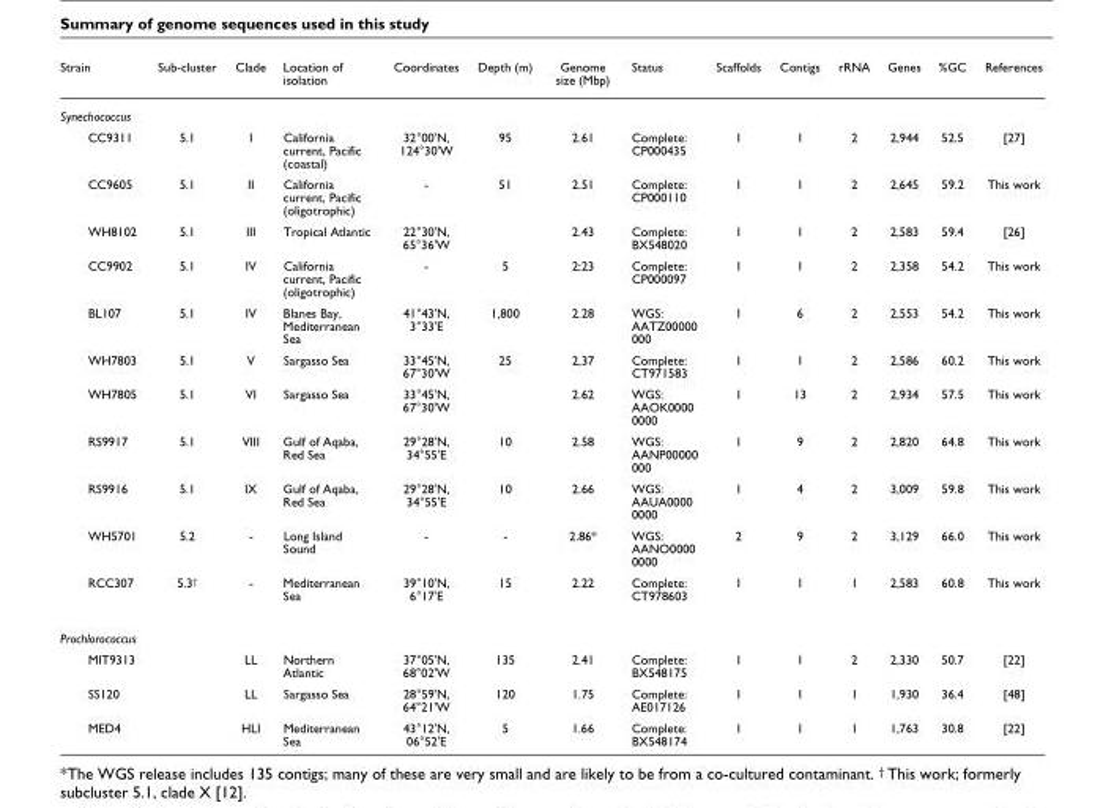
<table><thead><tr><td>Strain</td><td>Sub-cluster</td><td>Clade</td><td>Location of isolation</td><td>Coordinates</td><td>Depth (m)</td><td>Genome size (Mbp)</td><td>Status</td><td>Scaffolds</td><td>Contigs</td><td>rRNA</td><td>Genes</td><td>%GC</td><td>References</td></tr></thead><tbody><tr><td colspan="14">Synechococcus</td></tr><tr><td>CC9311</td><td>5.1</td><td>I</td><td>California current, Pacific (coastal)</td><td>32°00&#x27;N, 124°30&#x27;W</td><td>95</td><td>2.61</td><td>Complete: CP000435</td><td>1</td><td>1</td><td>2</td><td>2,944</td><td>52.5</td><td>[27]</td></tr><tr><td>CC9605</td><td>5.1</td><td>II</td><td>California current, Pacific (oligotrophic)</td><td>-</td><td>51</td><td>2.51</td><td>Complete: CP000110</td><td>1</td><td>1</td><td>2</td><td>2,645</td><td>59.2</td><td>This work</td></tr><tr><td>WH8102</td><td>5.1</td><td>III</td><td>Tropical Atlantic</td><td>22°30&#x27;N, 65°36&#x27;W</td><td></td><td>2.43</td><td>Complete: BX548020</td><td>1</td><td>1</td><td>2</td><td>2,583</td><td>59.4</td><td>[26]</td></tr><tr><td>CC9902</td><td>5.1</td><td>IV</td><td>California current, Pacific (oligotrophic)</td><td>-</td><td>5</td><td>2;23</td><td>Complete: CP000097</td><td>1</td><td>1</td><td>2</td><td>2,358</td><td>54.2</td><td>This work</td></tr><tr><td>BL107</td><td>5.1</td><td>IV</td><td>Blanes Bay, Mediterranean Sea</td><td>41°43&#x27;N, 3°33&#x27;E</td><td>1,800</td><td>2.28</td><td>WGS: AATZ00000 000</td><td>1</td><td>6</td><td>2</td><td>2,553</td><td>54.2</td><td>This work</td></tr><tr><td>WH7803</td><td>5.1</td><td>V</td><td>Sargasso Sea</td><td>33°45&#x27;N, 67°30&#x27;W</td><td>25</td><td>2,37</td><td>Complete: CT971583</td><td>1</td><td>1</td><td>2</td><td>2,586</td><td>60.2</td><td>This work</td></tr><tr><td>WH7805</td><td>5.1</td><td>VI</td><td>Sargasso Sea</td><td>33°45&#x27;N, 67°30&#x27;W</td><td></td><td>2.62</td><td>WGS: AAOK0000 0000</td><td>1</td><td>13</td><td>2</td><td>2,934</td><td>57.5</td><td>This work</td></tr><tr><td>RS9917</td><td>5.1</td><td>VIII</td><td>Gulf of Aqaba, Red Sea</td><td>29°28&#x27;N, 34°55&#x27;E</td><td>10</td><td>2.58</td><td>WGS: AANP00000 000</td><td>1</td><td>9</td><td>2</td><td>2,820</td><td>64.8</td><td>This work</td></tr><tr><td>RS9916</td><td>5.1</td><td>IX</td><td>Gulf of Aqaba, Red Sea</td><td>29°28&#x27;N, 34°55&#x27;E</td><td>10</td><td>2.66</td><td>WGS: AAUA0000 0000</td><td>1</td><td>4</td><td>2</td><td>3,009</td><td>59.8</td><td>This work</td></tr><tr><td>WH5701</td><td>5.2</td><td>-</td><td>Long Island Sound</td><td>-</td><td>-</td><td>2.86*</td><td>WGS: AANO0000 0000</td><td>2</td><td>9</td><td>2</td><td>3,129</td><td>66.0</td><td>This work</td></tr><tr><td>RCC307</td><td>5.3<sup>†</sup></td><td>-</td><td>Mediterranean Sea</td><td>39°10&#x27;N, 6°17&#x27;E</td><td>15</td><td>2.22</td><td>Complete: CT978603</td><td>1</td><td>1</td><td>1</td><td>2,583</td><td>60.8</td><td>This work</td></tr><tr><td colspan="14">Prochlorococcus</td></tr><tr><td>MIT9313</td><td></td><td>LL</td><td>Northern Atlantic</td><td>37°05&#x27;N, 68°02&#x27;W</td><td>135</td><td>2.41</td><td>Complete: BX548175</td><td>1</td><td>1</td><td>2</td><td>2,330</td><td>50.7</td><td>[22]</td></tr><tr><td>SS120</td><td></td><td>LL</td><td>Sargasso Sea</td><td>28°59&#x27;N, 64°21&#x27;W</td><td>120</td><td>1.75</td><td>Complete: AE017126</td><td>1</td><td>1</td><td>1</td><td>1,930</td><td>36.4</td><td>[48]</td></tr><tr><td>MED4</td><td></td><td>HLI</td><td>Mediterranean Sea</td><td>43°12&#x27;N, 06°52&#x27;E</td><td>5</td><td>1.66</td><td>Complete: BX548174</td><td>1</td><td>1</td><td>1</td><td>1,763</td><td>30.8</td><td>[22]</td></tr></tbody></table>